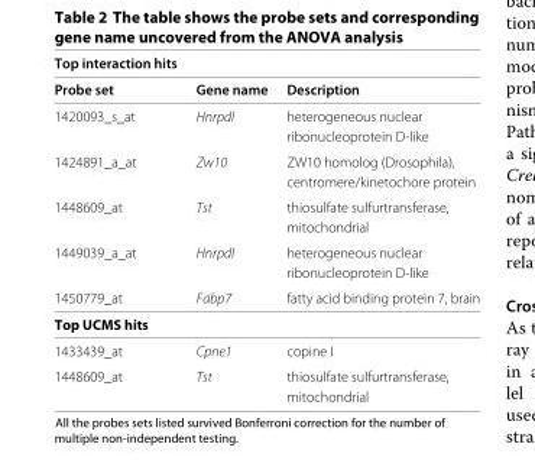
<table><thead><tr><td>Top interaction hits</td><td></td><td></td></tr></thead><tbody><tr><td>Probe set</td><td>Gene name</td><td>Description</td></tr><tr><td rowspan="2">1420093_s_at</td><td>Hnrpdl</td><td>heterogeneous nuclear</td></tr><tr><td></td><td>ribonucleoprotein D-like</td></tr><tr><td rowspan="2">1424891_a_at</td><td>Zw10</td><td>ZW10 homolog (Drosophila),</td></tr><tr><td></td><td>centromere/kinetochore protein</td></tr><tr><td rowspan="2">1448609_at</td><td>Tst</td><td>thiosulfate sulfurtransferase,</td></tr><tr><td></td><td>mitochondrial</td></tr><tr><td rowspan="2">1449039_a_at</td><td>Hnrpdl</td><td>heterogeneous nuclear</td></tr><tr><td></td><td>ribonucleoprotein D-like</td></tr><tr><td>1450779_at</td><td>Fabp7</td><td>fatty acid binding protein 7, brain</td></tr><tr><td colspan="3">Top UCMS hits</td></tr><tr><td>1433439_at</td><td>Cpne1</td><td>copine I</td></tr><tr><td rowspan="2">1448609_at</td><td>Tst</td><td>thiosulfate sulfurtransferase,</td></tr><tr><td></td><td>mitochondrial</td></tr></tbody></table>